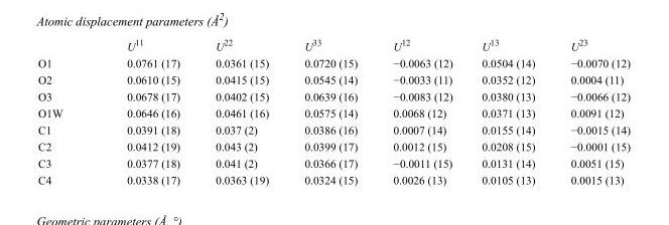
<table><thead><tr><td></td><td>U<sup>11</sup></td><td>U<sup>22</sup></td><td>U<sup>33</sup></td><td>U<sup>12</sup></td><td>U<sup>13</sup></td><td>U<sup>23</sup></td></tr></thead><tbody><tr><td>O1</td><td>0.0761 (17)</td><td>0.0361 (15)</td><td>0.0720 (15)</td><td>−0.0063 (12)</td><td>0.0504 (14)</td><td>−0.0070 (12)</td></tr><tr><td>O2</td><td>0.0610 (15)</td><td>0.0415 (15)</td><td>0.0545 (14)</td><td>−0.0033 (11)</td><td>0.0352 (12)</td><td>0.0004 (11)</td></tr><tr><td>O3</td><td>0.0678 (17)</td><td>0.0402 (15)</td><td>0.0639 (16)</td><td>−0.0083 (12)</td><td>0.0380 (13)</td><td>−0.0066 (12)</td></tr><tr><td>O1W</td><td>0.0646 (16)</td><td>0.0461 (16)</td><td>0.0575 (14)</td><td>0.0068 (12)</td><td>0.0371 (13)</td><td>0.0091 (12)</td></tr><tr><td>C1</td><td>0.0391 (18)</td><td>0.037 (2)</td><td>0.0386 (16)</td><td>0.0007 (14)</td><td>0.0155 (14)</td><td>−0.0015 (14)</td></tr><tr><td>C2</td><td>0.0412 (19)</td><td>0.043 (2)</td><td>0.0399 (17)</td><td>0.0012 (15)</td><td>0.0208 (15)</td><td>−0.0001 (15)</td></tr><tr><td>C3</td><td>0.0377 (18)</td><td>0.041 (2)</td><td>0.0366 (17)</td><td>−0.0011 (15)</td><td>0.0131 (14)</td><td>0.0051 (15)</td></tr><tr><td>C4</td><td>0.0338 (17)</td><td>0.0363 (19)</td><td>0.0324 (15)</td><td>0.0026 (13)</td><td>0.0105 (13)</td><td>0.0015 (13)</td></tr></tbody></table>